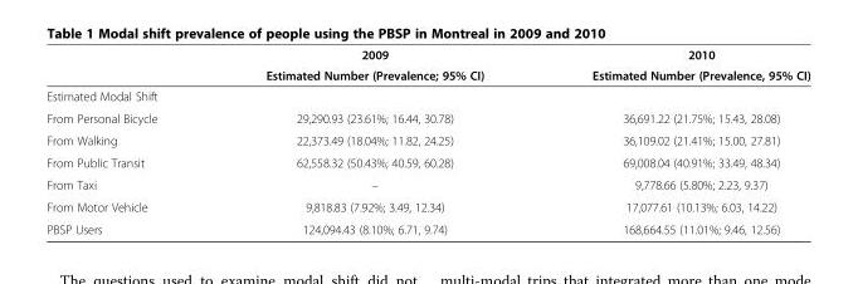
<table><thead><tr><td rowspan="2"></td><td rowspan="2">2009 Estimated Number (Prevalence; 95% CI)</td><td rowspan="2">2010 Estimated Number (Prevalence, 95% CI)</td></tr><tr></tr></thead><tbody><tr><td colspan="3">Estimated Modal Shift</td></tr><tr><td>From Personal Bicycle</td><td>29,290.93 (23.61%; 16.44, 30.78)</td><td>36,691.22 (21.75%; 15.43, 28.08)</td></tr><tr><td>From Walking</td><td>22,373.49 (18.04%; 11.82, 24.25)</td><td>36,109.02 (21.41%; 15.00, 27.81)</td></tr><tr><td>From Public Transit</td><td>62,558.32 (50.43%; 40.59, 60.28)</td><td>69,008.04 (40.91%; 33.49, 48.34)</td></tr><tr><td>From Taxi</td><td>–</td><td>9,778.66 (5.80%; 2.23, 9.37)</td></tr><tr><td>From Motor Vehicle</td><td>9,818.83 (7.92%; 3.49, 12.34)</td><td>17,077.61 (10.13%; 6.03, 14.22)</td></tr><tr><td>PBSP Users</td><td>124,094.43 (8.10%; 6.71, 9.74)</td><td>168,664.55 (11.01%; 9.46, 12.56)</td></tr></tbody></table>